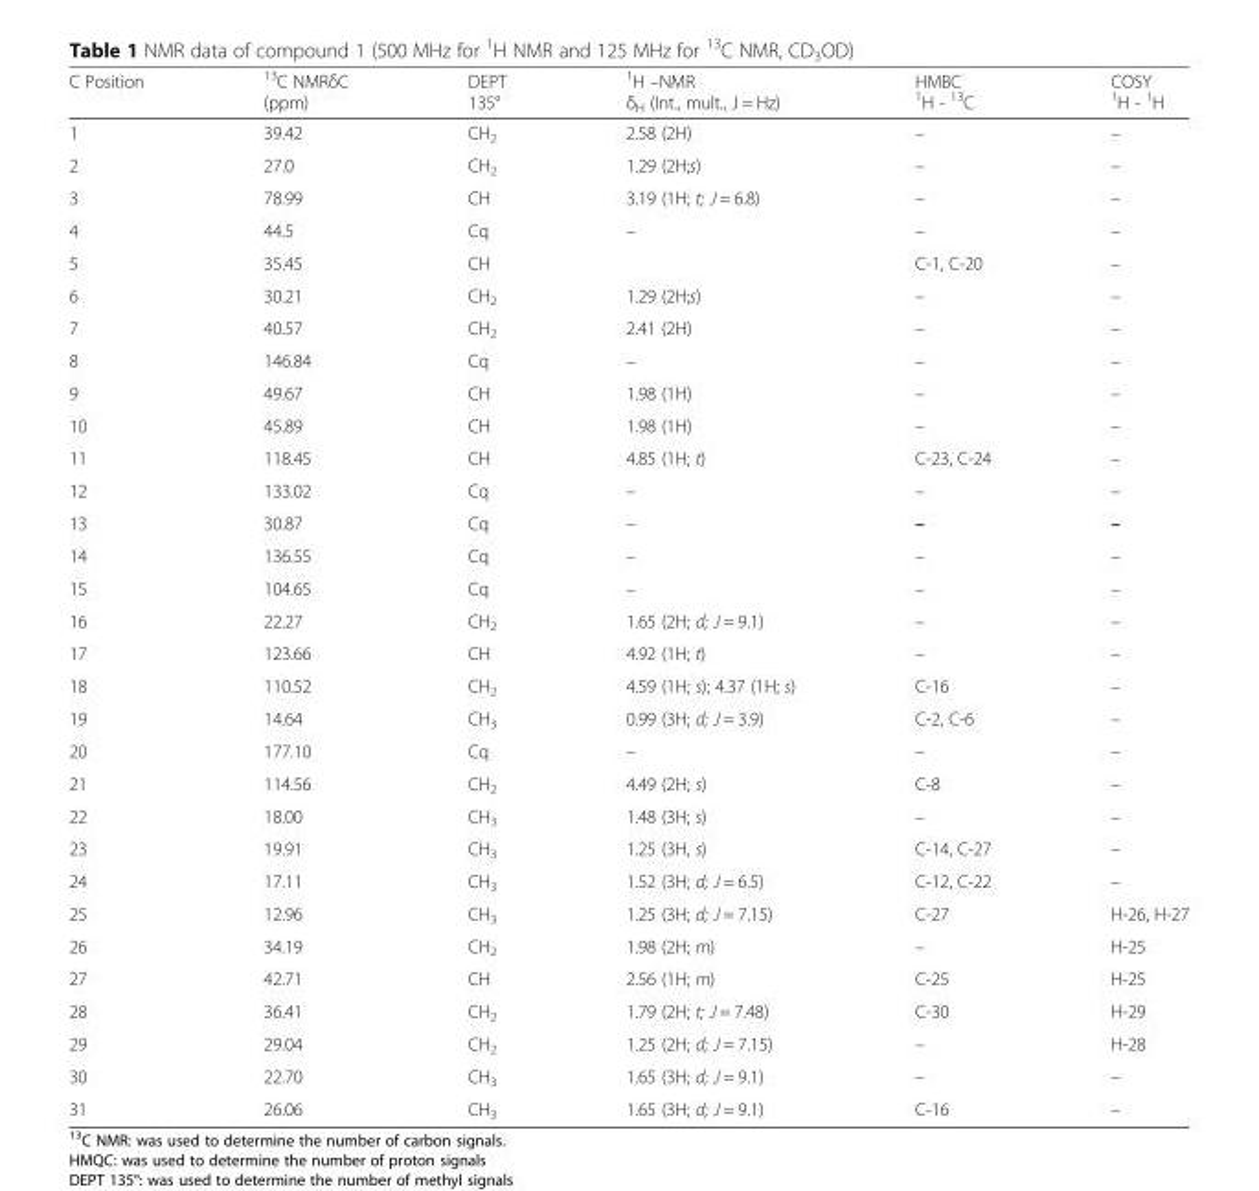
<table><thead><tr><td>C Position</td><td><sup>13</sup>C NMRδC (ppm)</td><td>DEPT 135°</td><td><sup>1</sup>H –NMR δ<sub>H</sub> (Int., mult., J = Hz)</td><td>HMBC <sup>1</sup>H - <sup>13</sup>C</td><td>COSY <sup>1</sup>H - <sup>1</sup>H</td></tr></thead><tbody><tr><td>1</td><td>39.42</td><td>CH<sub>2</sub></td><td>2.58 (2H)</td><td>–</td><td>–</td></tr><tr><td>2</td><td>27.0</td><td>CH<sub>2</sub></td><td>1.29 (2H;s)</td><td>–</td><td>–</td></tr><tr><td>3</td><td>78.99</td><td>CH</td><td>3.19 (1H; t; J = 6.8)</td><td>–</td><td>–</td></tr><tr><td>4</td><td>44.5</td><td>Cq</td><td>–</td><td>–</td><td>–</td></tr><tr><td>5</td><td>35.45</td><td>CH</td><td></td><td>C-1, C-20</td><td>–</td></tr><tr><td>6</td><td>30.21</td><td>CH<sub>2</sub></td><td>1.29 (2H;s)</td><td>–</td><td>–</td></tr><tr><td>7</td><td>40.57</td><td>CH<sub>2</sub></td><td>2.41 (2H)</td><td>–</td><td>–</td></tr><tr><td>8</td><td>146.84</td><td>Cq</td><td>–</td><td>–</td><td>–</td></tr><tr><td>9</td><td>49.67</td><td>CH</td><td>1.98 (1H)</td><td>–</td><td>–</td></tr><tr><td>10</td><td>45.89</td><td>CH</td><td>1.98 (1H)</td><td>–</td><td>–</td></tr><tr><td>11</td><td>118.45</td><td>CH</td><td>4.85 (1H; t)</td><td>C-23, C-24</td><td>–</td></tr><tr><td>12</td><td>133.02</td><td>Cq</td><td>–</td><td>–</td><td>–</td></tr><tr><td>13</td><td>30.87</td><td>Cq</td><td>–</td><td>–</td><td>–</td></tr><tr><td>14</td><td>136.55</td><td>Cq</td><td>–</td><td>–</td><td>–</td></tr><tr><td>15</td><td>104.65</td><td>Cq</td><td>–</td><td>–</td><td>–</td></tr><tr><td>16</td><td>22.27</td><td>CH<sub>2</sub></td><td>1.65 (2H; d; J = 9.1)</td><td>–</td><td>–</td></tr><tr><td>17</td><td>123.66</td><td>CH</td><td>4.92 (1H; t)</td><td>–</td><td>–</td></tr><tr><td>18</td><td>110.52</td><td>CH<sub>2</sub></td><td>4.59 (1H; s); 4.37 (1H; s)</td><td>C-16</td><td>–</td></tr><tr><td>19</td><td>14.64</td><td>CH<sub>3</sub></td><td>0.99 (3H; d; J = 3.9)</td><td>C-2, C-6</td><td>–</td></tr><tr><td>20</td><td>177.10</td><td>Cq</td><td>–</td><td>–</td><td>–</td></tr><tr><td>21</td><td>114.56</td><td>CH<sub>2</sub></td><td>4.49 (2H; s)</td><td>C-8</td><td>–</td></tr><tr><td>22</td><td>18.00</td><td>CH<sub>3</sub></td><td>1.48 (3H; s)</td><td>–</td><td>–</td></tr><tr><td>23</td><td>19.91</td><td>CH<sub>3</sub></td><td>1.25 (3H, s)</td><td>C-14, C-27</td><td>–</td></tr><tr><td>24</td><td>17.11</td><td>CH<sub>3</sub></td><td>1.52 (3H; d; J = 6.5)</td><td>C-12, C-22</td><td>–</td></tr><tr><td>25</td><td>12.96</td><td>CH<sub>3</sub></td><td>1.25 (3H; d; J = 7.15)</td><td>C-27</td><td>H-26, H-27</td></tr><tr><td>26</td><td>34.19</td><td>CH<sub>2</sub></td><td>1.98 (2H; m)</td><td>–</td><td>H-25</td></tr><tr><td>27</td><td>42.71</td><td>CH</td><td>2.56 (1H; m)</td><td>C-25</td><td>H-25</td></tr><tr><td>28</td><td>36.41</td><td>CH<sub>2</sub></td><td>1.79 (2H; t; J = 7.48)</td><td>C-30</td><td>H-29</td></tr><tr><td>29</td><td>29.04</td><td>CH<sub>2</sub></td><td>1.25 (2H; d; J = 7.15)</td><td>–</td><td>H-28</td></tr><tr><td>30</td><td>22.70</td><td>CH<sub>3</sub></td><td>1.65 (3H; d; J = 9.1)</td><td>–</td><td>–</td></tr><tr><td>31</td><td>26.06</td><td>CH<sub>3</sub></td><td>1.65 (3H; d; J = 9.1)</td><td>C-16</td><td>–</td></tr></tbody></table>